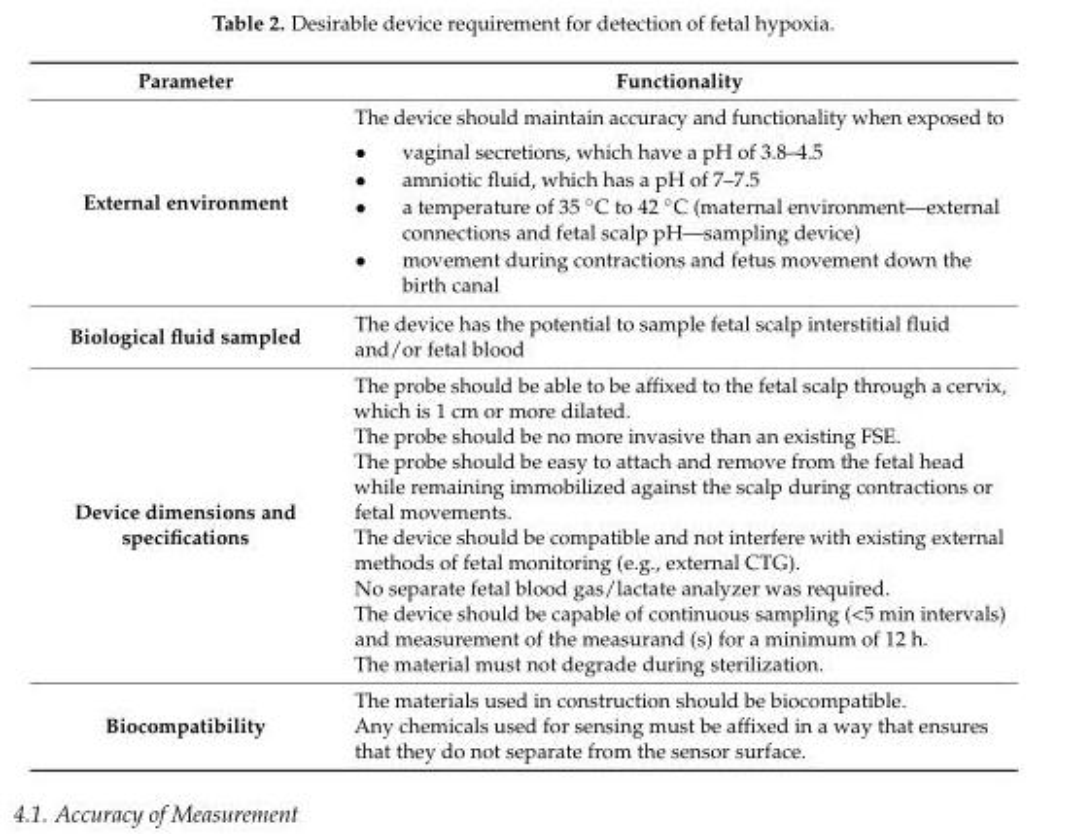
<table><thead><tr><td>Parameter</td><td>Functionality</td></tr></thead><tbody><tr><td>External environment</td><td>The device should maintain accuracy and functionality when exposed to • vaginal secretions, which have a pH of 3.8–4.5 • amniotic fluid, which has a pH of 7–7.5 • a temperature of 35 ◦C to 42 ◦C (maternal environment—external connections and fetal scalp pH—sampling device) • movement during contractions and fetus movement down the birth canal</td></tr><tr><td>Biological fluid sampled</td><td>The device has the potential to sample fetal scalp interstitial fluid and/or fetal blood</td></tr><tr><td>Device dimensions and specifications</td><td>The probe should be able to be affixed to the fetal scalp through a cervix, which is 1 cm or more dilated. The probe should be no more invasive than an existing FSE. The probe should be easy to attach and remove from the fetal head while remaining immobilized against the scalp during contractions or fetal movements. The device should be compatible and not interfere with existing external methods of fetal monitoring (e.g., external CTG). No separate fetal blood gas/lactate analyzer was required. The device should be capable of continuous sampling (&lt;5 min intervals) and measurement of the measurand (s) for a minimum of 12 h. The material must not degrade during sterilization.</td></tr><tr><td>Biocompatibility</td><td>The materials used in construction should be biocompatible. Any chemicals used for sensing must be affixed in a way that ensures that they do not separate from the sensor surface.</td></tr></tbody></table>